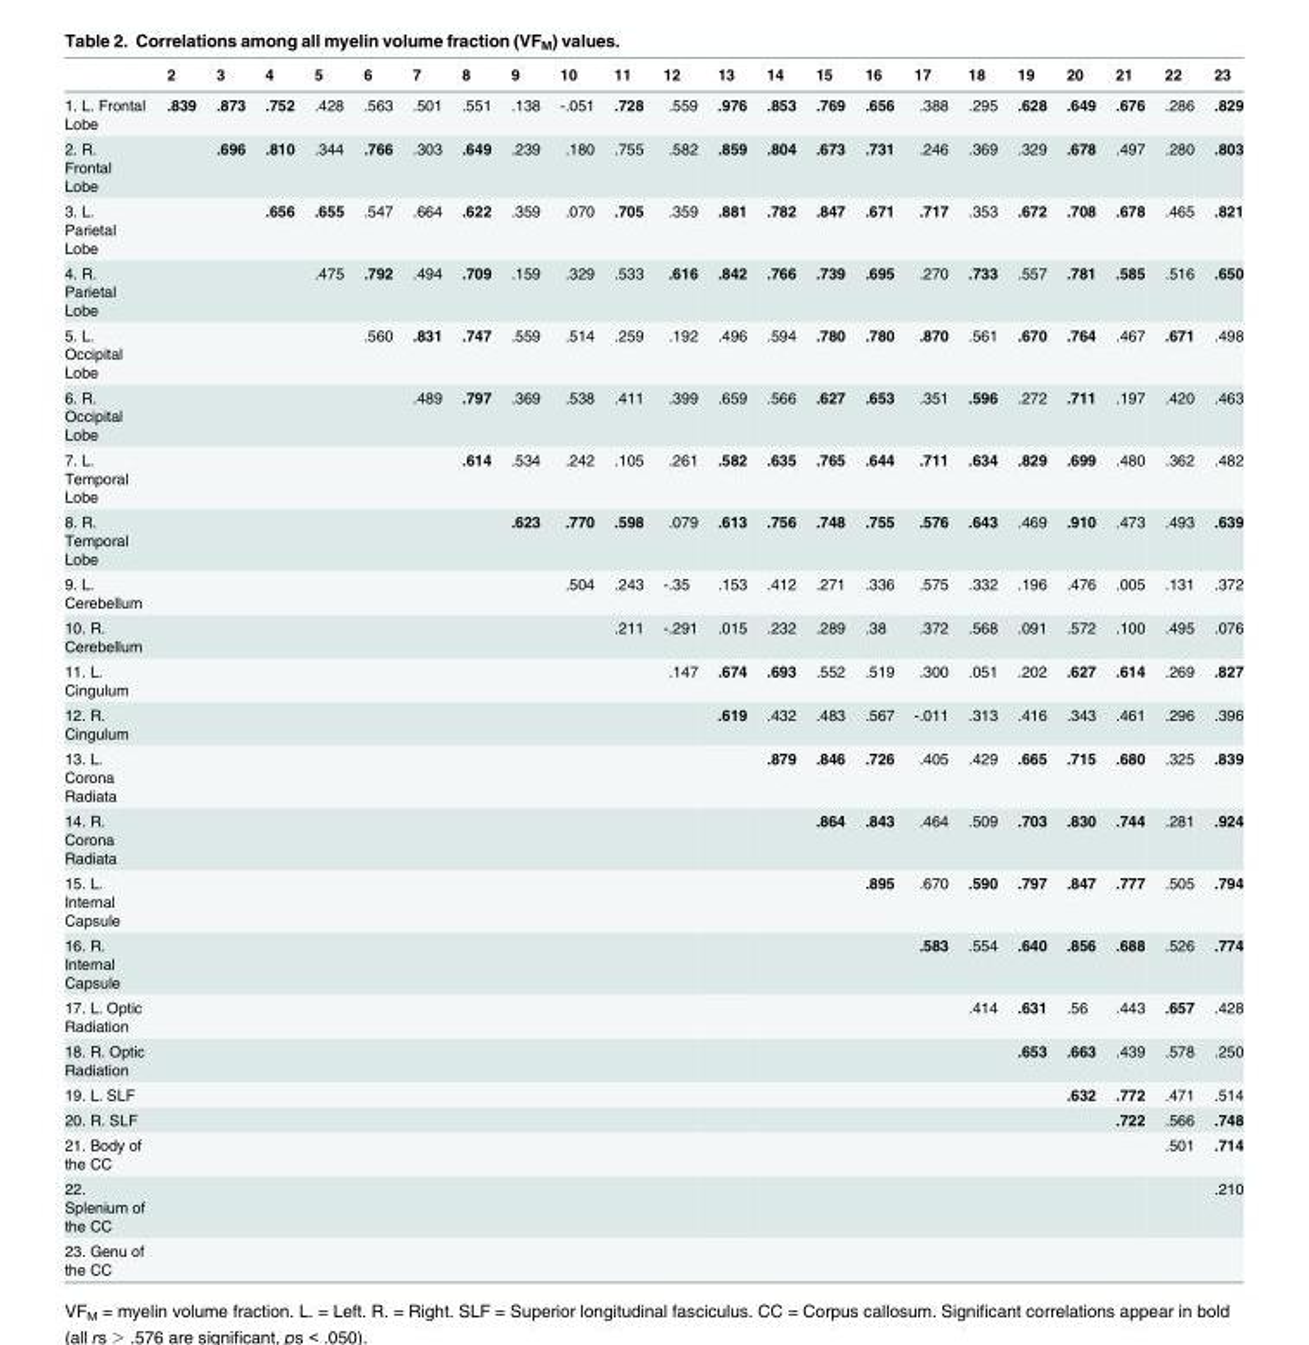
<table><thead><tr><td></td><td>2</td><td>3</td><td>4</td><td>5</td><td>6</td><td>7</td><td>8</td><td>9</td><td>10</td><td>11</td><td>12</td><td>13</td><td>14</td><td>15</td><td>16</td><td>17</td><td>18</td><td>19</td><td>20</td><td>21</td><td>22</td><td>23</td></tr></thead><tbody><tr><td>1. L. Frontal Lobe</td><td>.839</td><td>.873</td><td>.752</td><td>.428</td><td>.563</td><td>.501</td><td>.551</td><td>.138</td><td>-.051</td><td>.728</td><td>.559</td><td>.976</td><td>.853</td><td>.769</td><td>.656</td><td>.388</td><td>.295</td><td>.628</td><td>.649</td><td>.676</td><td>.286</td><td>.829</td></tr><tr><td>2. R. Frontal Lobe</td><td></td><td>.696</td><td>.810</td><td>.344</td><td>.766</td><td>.303</td><td>.649</td><td>.239</td><td>.180</td><td>.755</td><td>.582</td><td>.859</td><td>.804</td><td>.673</td><td>.731</td><td>.246</td><td>.369</td><td>.329</td><td>.678</td><td>.497</td><td>.280</td><td>.803</td></tr><tr><td>3. L. Parietal Lobe</td><td></td><td></td><td>.656</td><td>.655</td><td>.547</td><td>.664</td><td>.622</td><td>.359</td><td>.070</td><td>.705</td><td>.359</td><td>.881</td><td>.782</td><td>.847</td><td>.671</td><td>.717</td><td>.353</td><td>.672</td><td>.708</td><td>.678</td><td>.465</td><td>.821</td></tr><tr><td>4. R. Parietal Lobe</td><td></td><td></td><td></td><td>.475</td><td>.792</td><td>.494</td><td>.709</td><td>.159</td><td>.329</td><td>.533</td><td>.616</td><td>.842</td><td>.766</td><td>.739</td><td>.695</td><td>.270</td><td>.733</td><td>.557</td><td>.781</td><td>.585</td><td>.516</td><td>.650</td></tr><tr><td>5. L. Occipital Lobe</td><td></td><td></td><td></td><td></td><td>.560</td><td>.831</td><td>.747</td><td>.559</td><td>.514</td><td>.259</td><td>.192</td><td>.496</td><td>.594</td><td>.780</td><td>.780</td><td>.870</td><td>.561</td><td>.670</td><td>.764</td><td>.467</td><td>.671</td><td>.498</td></tr><tr><td>6. R. Occipital Lobe</td><td></td><td></td><td></td><td></td><td></td><td>.489</td><td>.797</td><td>.369</td><td>.538</td><td>.411</td><td>.399</td><td>.659</td><td>.566</td><td>.627</td><td>.653</td><td>.351</td><td>.596</td><td>.272</td><td>.711</td><td>.197</td><td>.420</td><td>.463</td></tr><tr><td>7. L. Temporal Lobe</td><td></td><td></td><td></td><td></td><td></td><td></td><td>.614</td><td>.534</td><td>.242</td><td>.105</td><td>.261</td><td>.582</td><td>.635</td><td>.765</td><td>.644</td><td>.711</td><td>.634</td><td>.829</td><td>.699</td><td>.480</td><td>.362</td><td>.482</td></tr><tr><td>8. R. Temporal Lobe</td><td></td><td></td><td></td><td></td><td></td><td></td><td></td><td>.623</td><td>.770</td><td>.598</td><td>.079</td><td>.613</td><td>.756</td><td>.748</td><td>.755</td><td>.576</td><td>.643</td><td>.469</td><td>.910</td><td>.473</td><td>.493</td><td>.639</td></tr><tr><td>9. L. Cerebellum</td><td></td><td></td><td></td><td></td><td></td><td></td><td></td><td></td><td>.504</td><td>.243</td><td>-.35</td><td>.153</td><td>.412</td><td>.271</td><td>.336</td><td>.575</td><td>.332</td><td>.196</td><td>.476</td><td>.005</td><td>.131</td><td>.372</td></tr><tr><td>10. R. Cerebellum</td><td></td><td></td><td></td><td></td><td></td><td></td><td></td><td></td><td></td><td>.211</td><td>-.291</td><td>.015</td><td>.232</td><td>.289</td><td>.38</td><td>.372</td><td>.568</td><td>.091</td><td>.572</td><td>.100</td><td>.495</td><td>.076</td></tr><tr><td>11. L. Cingulum</td><td></td><td></td><td></td><td></td><td></td><td></td><td></td><td></td><td></td><td></td><td>.147</td><td>.674</td><td>.693</td><td>.552</td><td>.519</td><td>.300</td><td>.051</td><td>.202</td><td>.627</td><td>.614</td><td>.269</td><td>.827</td></tr><tr><td>12. R. Cingulum</td><td></td><td></td><td></td><td></td><td></td><td></td><td></td><td></td><td></td><td></td><td></td><td>.619</td><td>.432</td><td>.483</td><td>.567</td><td>-.011</td><td>.313</td><td>.416</td><td>.343</td><td>.461</td><td>.296</td><td>.396</td></tr><tr><td>13. L. Corona Radiata</td><td></td><td></td><td></td><td></td><td></td><td></td><td></td><td></td><td></td><td></td><td></td><td></td><td>.879</td><td>.846</td><td>.726</td><td>.405</td><td>.429</td><td>.665</td><td>.715</td><td>.680</td><td>.325</td><td>.839</td></tr><tr><td>14. R. Corona Radiata</td><td></td><td></td><td></td><td></td><td></td><td></td><td></td><td></td><td></td><td></td><td></td><td></td><td></td><td>.864</td><td>.843</td><td>.464</td><td>.509</td><td>.703</td><td>.830</td><td>.744</td><td>.281</td><td>.924</td></tr><tr><td>15. L. Internal Capsule</td><td></td><td></td><td></td><td></td><td></td><td></td><td></td><td></td><td></td><td></td><td></td><td></td><td></td><td></td><td>.895</td><td>.670</td><td>.590</td><td>.797</td><td>.847</td><td>.777</td><td>.505</td><td>.794</td></tr><tr><td>16. R. Internal Capsule</td><td></td><td></td><td></td><td></td><td></td><td></td><td></td><td></td><td></td><td></td><td></td><td></td><td></td><td></td><td></td><td>.583</td><td>.554</td><td>.640</td><td>.856</td><td>.688</td><td>.526</td><td>.774</td></tr><tr><td>17. L. Optic Radiation</td><td></td><td></td><td></td><td></td><td></td><td></td><td></td><td></td><td></td><td></td><td></td><td></td><td></td><td></td><td></td><td></td><td>.414</td><td>.631</td><td>.56</td><td>.443</td><td>.657</td><td>.428</td></tr><tr><td>18. R. Optic Radiation</td><td></td><td></td><td></td><td></td><td></td><td></td><td></td><td></td><td></td><td></td><td></td><td></td><td></td><td></td><td></td><td></td><td></td><td>.653</td><td>.663</td><td>.439</td><td>.578</td><td>.250</td></tr><tr><td>19. L. SLF</td><td></td><td></td><td></td><td></td><td></td><td></td><td></td><td></td><td></td><td></td><td></td><td></td><td></td><td></td><td></td><td></td><td></td><td></td><td>.632</td><td>.772</td><td>.471</td><td>.514</td></tr><tr><td>20. R. SLF</td><td></td><td></td><td></td><td></td><td></td><td></td><td></td><td></td><td></td><td></td><td></td><td></td><td></td><td></td><td></td><td></td><td></td><td></td><td></td><td>.722</td><td>.566</td><td>.748</td></tr><tr><td>21. Body of the CC</td><td></td><td></td><td></td><td></td><td></td><td></td><td></td><td></td><td></td><td></td><td></td><td></td><td></td><td></td><td></td><td></td><td></td><td></td><td></td><td></td><td>.501</td><td>.714</td></tr><tr><td>22. Splenium of the CC</td><td></td><td></td><td></td><td></td><td></td><td></td><td></td><td></td><td></td><td></td><td></td><td></td><td></td><td></td><td></td><td></td><td></td><td></td><td></td><td></td><td></td><td>.210</td></tr><tr><td>23. Genu of the CC</td><td></td><td></td><td></td><td></td><td></td><td></td><td></td><td></td><td></td><td></td><td></td><td></td><td></td><td></td><td></td><td></td><td></td><td></td><td></td><td></td><td></td><td></td></tr></tbody></table>